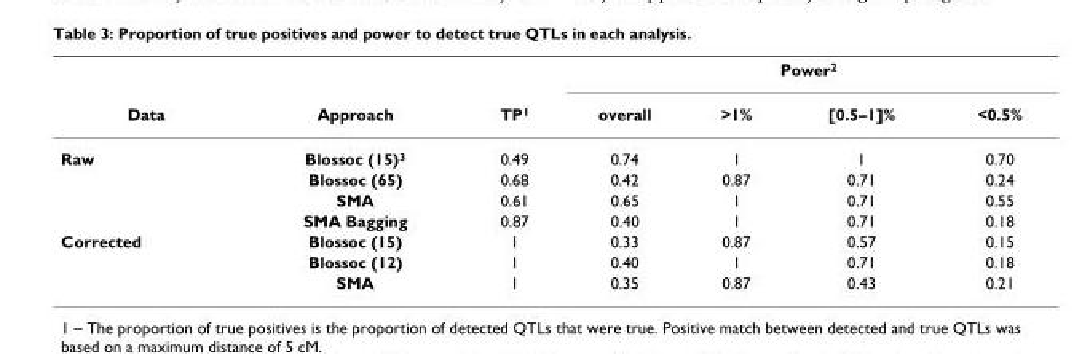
<table><thead><tr><td rowspan="2">Data</td><td rowspan="2">Approach</td><td rowspan="2">TP<sup>1</sup></td><td colspan="4">Power<sup>2</sup></td></tr><tr><td>overall</td><td>&gt;1%</td><td>[0.5–1]%</td><td>&lt;0.5%</td></tr></thead><tbody><tr><td rowspan="4">Raw</td><td>Blossoc (15)<sup>3</sup></td><td>0.49</td><td>0.74</td><td>1</td><td>1</td><td>0.70</td></tr><tr><td>Blossoc (65)</td><td>0.68</td><td>0.42</td><td>0.87</td><td>0.71</td><td>0.24</td></tr><tr><td>SMA</td><td>0.61</td><td>0.65</td><td>1</td><td>0.71</td><td>0.55</td></tr><tr><td>SMA Bagging</td><td>0.87</td><td>0.40</td><td>1</td><td>0.71</td><td>0.18</td></tr><tr><td rowspan="3">Corrected</td><td>Blossoc (15)</td><td>1</td><td>0.33</td><td>0.87</td><td>0.57</td><td>0.15</td></tr><tr><td>Blossoc (12)</td><td>1</td><td>0.40</td><td>1</td><td>0.71</td><td>0.18</td></tr><tr><td>SMA</td><td>1</td><td>0.35</td><td>0.87</td><td>0.43</td><td>0.21</td></tr></tbody></table>